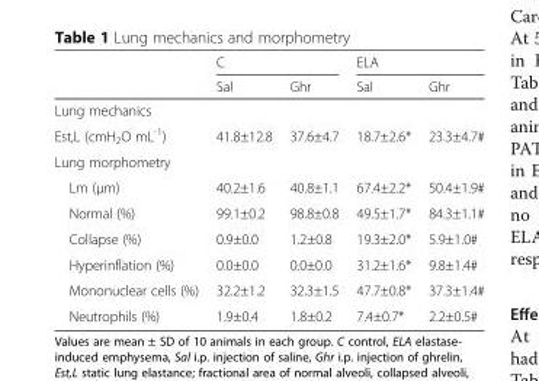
<table><thead><tr><td rowspan="2"></td><td colspan="2">C</td><td colspan="2">ELA</td></tr><tr><td>Sal</td><td>Ghr</td><td>Sal</td><td>Ghr</td></tr></thead><tbody><tr><td colspan="5">Lung mechanics</td></tr><tr><td>Est,L (cmH<sub>2</sub>O mL<sup>-1</sup>)</td><td>41.8±12.8</td><td>37.6±4.7</td><td>18.7±2.6*</td><td>23.3±4.7#</td></tr><tr><td colspan="5">Lung morphometry</td></tr><tr><td>Lm (μm)</td><td>40.2±1.6</td><td>40.8±1.1</td><td>67.4±2.2*</td><td>50.4±1.9#</td></tr><tr><td>Normal (%)</td><td>99.1±0.2</td><td>98.8±0.8</td><td>49.5±1.7*</td><td>84.3±1.1#</td></tr><tr><td>Collapse (%)</td><td>0.9±0.0</td><td>1.2±0.8</td><td>19.3±2.0*</td><td>5.9±1.0#</td></tr><tr><td>Hyperinflation (%)</td><td>0.0±0.0</td><td>0.0±0.0</td><td>31.2±1.6*</td><td>9.8±1.4#</td></tr><tr><td>Mononuclear cells (%)</td><td>32.2±1.2</td><td>32.3±1.5</td><td>47.7±0.8*</td><td>37.3±1.4#</td></tr><tr><td>Neutrophils (%)</td><td>1.9±0.4</td><td>1.8±0.2</td><td>7.4±0.7*</td><td>2.2±0.5#</td></tr></tbody></table>